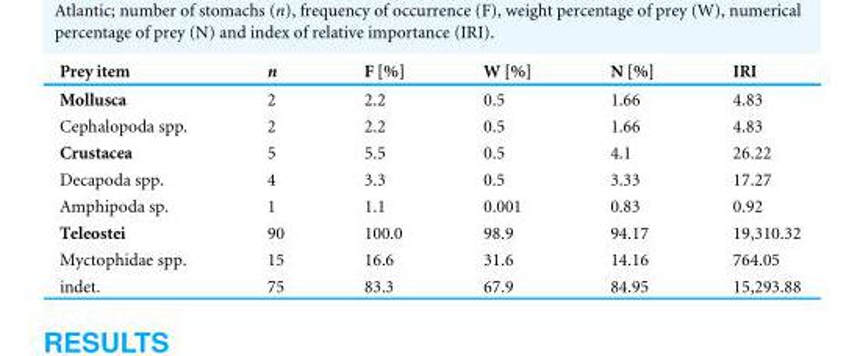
<table><thead><tr><td>Prey item</td><td>n</td><td>F [%]</td><td>W [%]</td><td>N [%]</td><td>IRI</td></tr></thead><tbody><tr><td>Mollusca</td><td>2</td><td>2.2</td><td>0.5</td><td>1.66</td><td>4.83</td></tr><tr><td>Cephalopoda spp.</td><td>2</td><td>2.2</td><td>0.5</td><td>1.66</td><td>4.83</td></tr><tr><td>Crustacea</td><td>5</td><td>5.5</td><td>0.5</td><td>4.1</td><td>26.22</td></tr><tr><td>Decapoda spp.</td><td>4</td><td>3.3</td><td>0.5</td><td>3.33</td><td>17.27</td></tr><tr><td>Amphipoda sp.</td><td>1</td><td>1.1</td><td>0.001</td><td>0.83</td><td>0.92</td></tr><tr><td>Teleostei</td><td>90</td><td>100.0</td><td>98.9</td><td>94.17</td><td>19,310.32</td></tr><tr><td>Myctophidae spp.</td><td>15</td><td>16.6</td><td>31.6</td><td>14.16</td><td>764.05</td></tr><tr><td>indet.</td><td>75</td><td>83.3</td><td>67.9</td><td>84.95</td><td>15,293.88</td></tr></tbody></table>